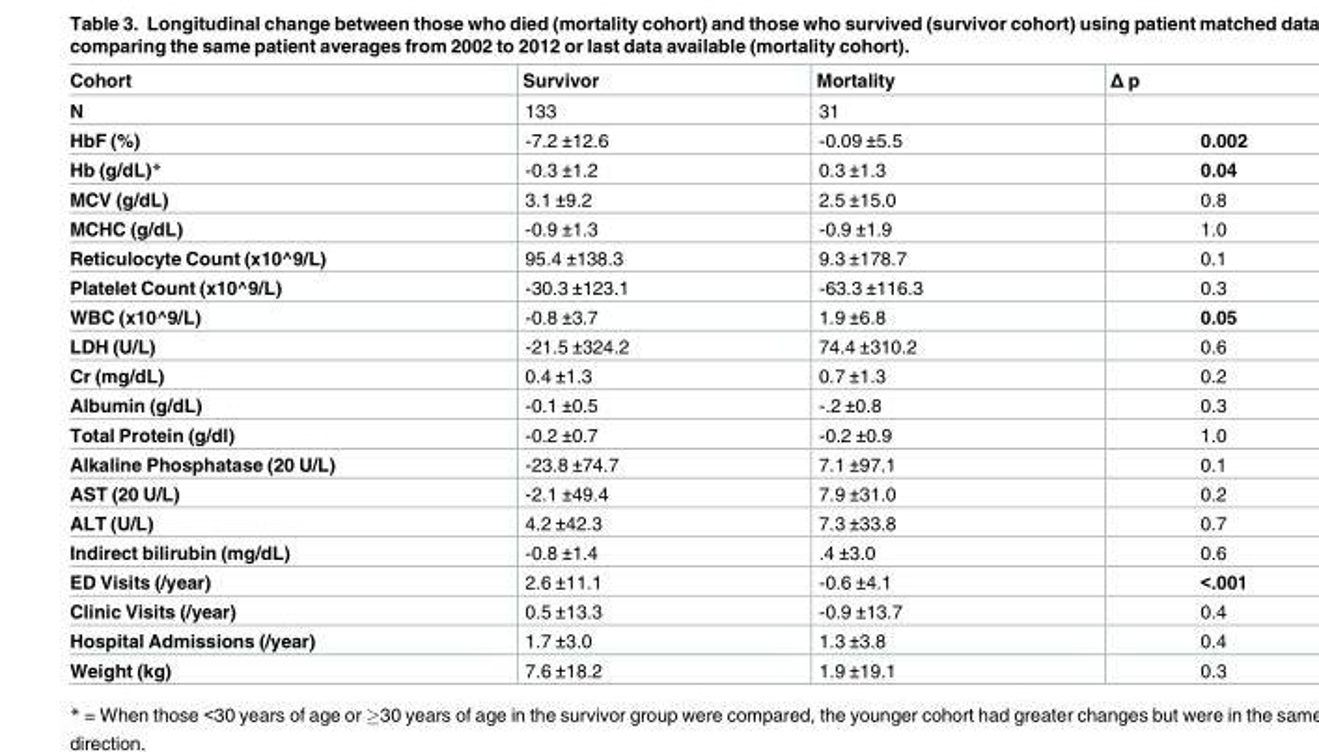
<table><thead><tr><td>Cohort</td><td>Survivor</td><td>Mortality</td><td>Δ p</td></tr></thead><tbody><tr><td>N</td><td>133</td><td>31</td><td></td></tr><tr><td>HbF (%)</td><td>-7.2 ±12.6</td><td>-0.09 ±5.5</td><td>0.002</td></tr><tr><td>Hb (g/dL)*</td><td>-0.3 ±1.2</td><td>0.3 ±1.3</td><td>0.04</td></tr><tr><td>MCV (g/dL)</td><td>3.1 ±9.2</td><td>2.5 ±15.0</td><td>0.8</td></tr><tr><td>MCHC (g/dL)</td><td>-0.9 ±1.3</td><td>-0.9 ±1.9</td><td>1.0</td></tr><tr><td>Reticulocyte Count (x10^9/L)</td><td>95.4 ±138.3</td><td>9.3 ±178.7</td><td>0.1</td></tr><tr><td>Platelet Count (x10^9/L)</td><td>-30.3 ±123.1</td><td>-63.3 ±116.3</td><td>0.3</td></tr><tr><td>WBC (x10^9/L)</td><td>-0.8 ±3.7</td><td>1.9 ±6.8</td><td>0.05</td></tr><tr><td>LDH (U/L)</td><td>-21.5 ±324.2</td><td>74.4 ±310.2</td><td>0.6</td></tr><tr><td>Cr (mg/dL)</td><td>0.4 ±1.3</td><td>0.7 ±1.3</td><td>0.2</td></tr><tr><td>Albumin (g/dL)</td><td>-0.1 ±0.5</td><td>-.2 ±0.8</td><td>0.3</td></tr><tr><td>Total Protein (g/dl)</td><td>-0.2 ±0.7</td><td>-0.2 ±0.9</td><td>1.0</td></tr><tr><td>Alkaline Phosphatase (20 U/L)</td><td>-23.8 ±74.7</td><td>7.1 ±97.1</td><td>0.1</td></tr><tr><td>AST (20 U/L)</td><td>-2.1 ±49.4</td><td>7.9 ±31.0</td><td>0.2</td></tr><tr><td>ALT (U/L)</td><td>4.2 ±42.3</td><td>7.3 ±33.8</td><td>0.7</td></tr><tr><td>Indirect bilirubin (mg/dL)</td><td>-0.8 ±1.4</td><td>.4 ±3.0</td><td>0.6</td></tr><tr><td>ED Visits (/year)</td><td>2.6 ±11.1</td><td>-0.6 ±4.1</td><td>&lt;.001</td></tr><tr><td>Clinic Visits (/year)</td><td>0.5 ±13.3</td><td>-0.9 ±13.7</td><td>0.4</td></tr><tr><td>Hospital Admissions (/year)</td><td>1.7 ±3.0</td><td>1.3 ±3.8</td><td>0.4</td></tr><tr><td>Weight (kg)</td><td>7.6 ±18.2</td><td>1.9 ±19.1</td><td>0.3</td></tr></tbody></table>